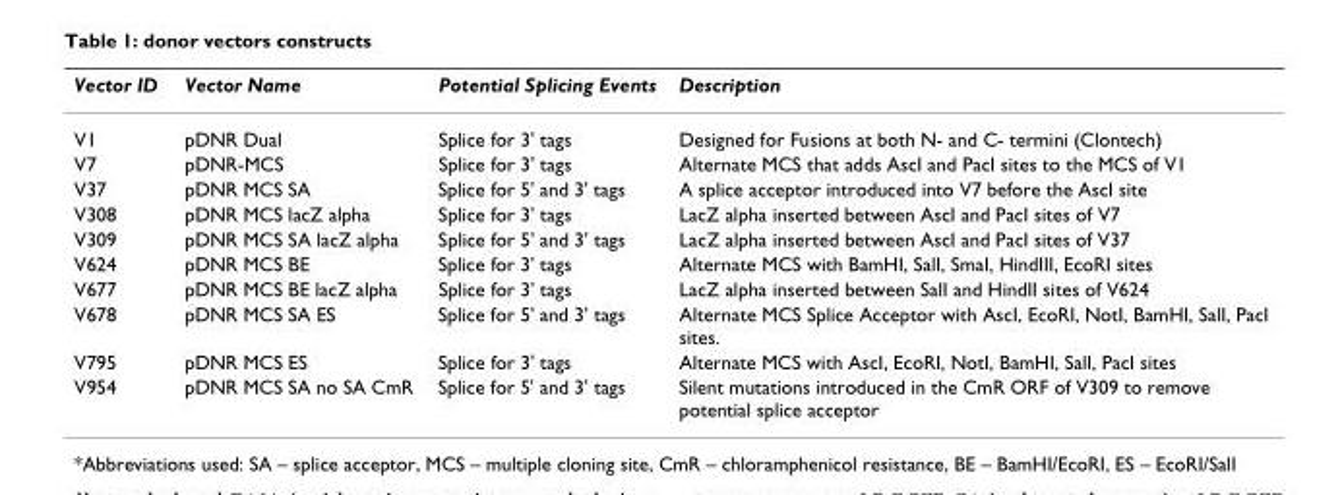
<table><thead><tr><td>Vector ID</td><td>Vector Name</td><td>Potential Splicing Events</td><td>Description</td></tr></thead><tbody><tr><td>V1</td><td>pDNR Dual</td><td>Splice for 3&#x27; tags</td><td>Designed for Fusions at both N- and C- termini (Clontech)</td></tr><tr><td>V7</td><td>pDNR-MCS</td><td>Splice for 3&#x27; tags</td><td>Alternate MCS that adds AscI and PacI sites to the MCS of V1</td></tr><tr><td>V37</td><td>pDNR MCS SA</td><td>Splice for 5&#x27; and 3&#x27; tags</td><td>A splice acceptor introduced into V7 before the AscI site</td></tr><tr><td>V308</td><td>pDNR MCS lacZ alpha</td><td>Splice for 3&#x27; tags</td><td>LacZ alpha inserted between AscI and PacI sites of V7</td></tr><tr><td>V309</td><td>pDNR MCS SA lacZ alpha</td><td>Splice for 5&#x27; and 3&#x27; tags</td><td>LacZ alpha inserted between AscI and PacI sites of V37</td></tr><tr><td>V624</td><td>pDNR MCS BE</td><td>Splice for 3&#x27; tags</td><td>Alternate MCS with BamHI, SalI, SmaI, HindIII, EcoRI sites</td></tr><tr><td>V677</td><td>pDNR MCS BE lacZ alpha</td><td>Splice for 3&#x27; tags</td><td>LacZ alpha inserted between SalI and HindII sites of V624</td></tr><tr><td>V678</td><td>pDNR MCS SA ES</td><td>Splice for 5&#x27; and 3&#x27; tags</td><td>Alternate MCS Splice Acceptor with AscI, EcoRI, NotI, BamHI, SalI, PacI sites.</td></tr><tr><td>V795</td><td>pDNR MCS ES</td><td>Splice for 3&#x27; tags</td><td>Alternate MCS with AscI, EcoRI, NotI, BamHI, SalI, PacI sites</td></tr><tr><td>V954</td><td>pDNR MCS SA no SA CmR</td><td>Splice for 5&#x27; and 3&#x27; tags</td><td>Silent mutations introduced in the CmR ORF of V309 to remove potential splice acceptor</td></tr></tbody></table>